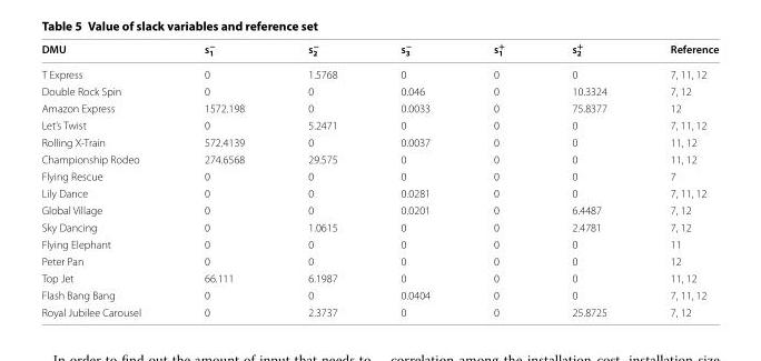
<table><thead><tr><td>DMU</td><td>s<sub>1</sub> <sup>−</sup></td><td>s<sub>2</sub> <sup>−</sup></td><td>s<sub>3</sub> <sup>−</sup></td><td>s<sub>1</sub> <sup>+</sup></td><td>s<sub>2</sub> <sup>+</sup></td><td>Reference</td></tr></thead><tbody><tr><td>T Express</td><td>0</td><td>1.5768</td><td>0</td><td>0</td><td>0</td><td>7, 11, 12</td></tr><tr><td>Double Rock Spin</td><td>0</td><td>0</td><td>0.046</td><td>0</td><td>10.3324</td><td>7, 12</td></tr><tr><td>Amazon Express</td><td>1572.198</td><td>0</td><td>0.0033</td><td>0</td><td>75.8377</td><td>12</td></tr><tr><td>Let’s Twist</td><td>0</td><td>5.2471</td><td>0</td><td>0</td><td>0</td><td>7, 11, 12</td></tr><tr><td>Rolling X-Train</td><td>572.4139</td><td>0</td><td>0.0037</td><td>0</td><td>0</td><td>11, 12</td></tr><tr><td>Championship Rodeo</td><td>274.6568</td><td>29.575</td><td>0</td><td>0</td><td>0</td><td>11, 12</td></tr><tr><td>Flying Rescue</td><td>0</td><td>0</td><td>0</td><td>0</td><td>0</td><td>7</td></tr><tr><td>Lily Dance</td><td>0</td><td>0</td><td>0.0281</td><td>0</td><td>0</td><td>7, 11, 12</td></tr><tr><td>Global Village</td><td>0</td><td>0</td><td>0.0201</td><td>0</td><td>6.4487</td><td>7, 12</td></tr><tr><td>Sky Dancing</td><td>0</td><td>1.0615</td><td>0</td><td>0</td><td>2.4781</td><td>7, 12</td></tr><tr><td>Flying Elephant</td><td>0</td><td>0</td><td>0</td><td>0</td><td>0</td><td>11</td></tr><tr><td>Peter Pan</td><td>0</td><td>0</td><td>0</td><td>0</td><td>0</td><td>12</td></tr><tr><td>Top Jet</td><td>66.111</td><td>6.1987</td><td>0</td><td>0</td><td>0</td><td>11, 12</td></tr><tr><td>Flash Bang Bang</td><td>0</td><td>0</td><td>0.0404</td><td>0</td><td>0</td><td>7, 11, 12</td></tr><tr><td>Royal Jubilee Carousel</td><td>0</td><td>2.3737</td><td>0</td><td>0</td><td>25.8725</td><td>7, 12</td></tr></tbody></table>